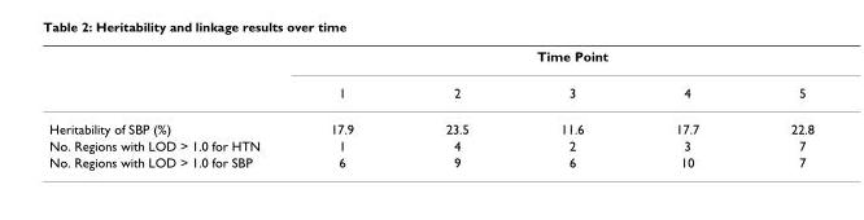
<table><thead><tr><td rowspan="2"></td><td colspan="5">Time Point</td></tr><tr><td>1</td><td>2</td><td>3</td><td>4</td><td>5</td></tr></thead><tbody><tr><td>Heritability of SBP (%)</td><td>17.9</td><td>23.5</td><td>11.6</td><td>17.7</td><td>22.8</td></tr><tr><td>No. Regions with LOD &gt; 1.0 for HTN</td><td>1</td><td>4</td><td>2</td><td>3</td><td>7</td></tr><tr><td>No. Regions with LOD &gt; 1.0 for SBP</td><td>6</td><td>9</td><td>6</td><td>10</td><td>7</td></tr></tbody></table>